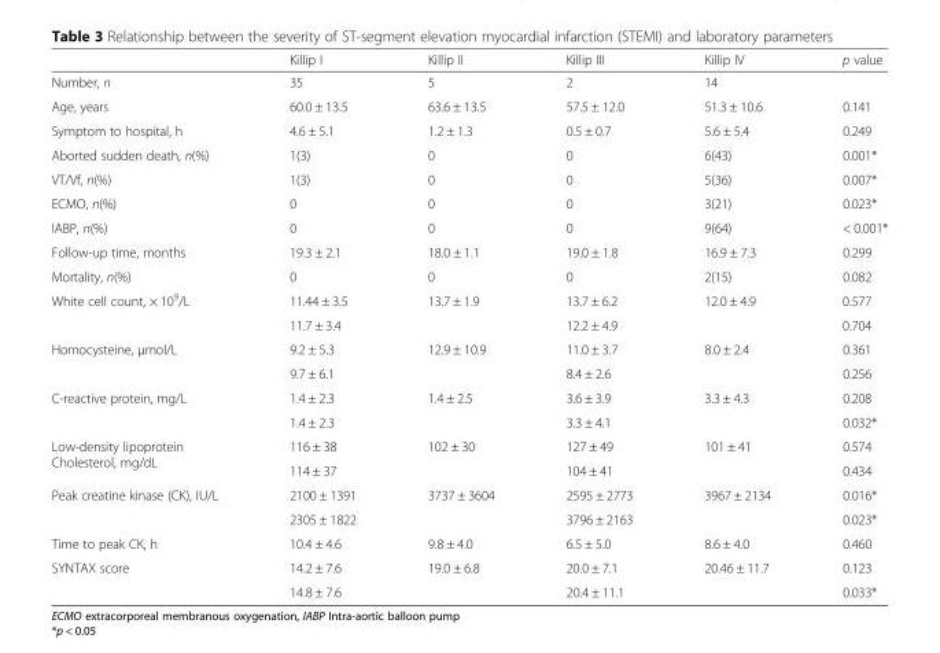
<table><thead><tr><td></td><td>Killip I</td><td>Killip II</td><td>Killip III</td><td>Killip IV</td><td>p value</td></tr></thead><tbody><tr><td>Number, n</td><td>35</td><td>5</td><td>2</td><td>14</td><td></td></tr><tr><td>Age, years</td><td>60.0 ± 13.5</td><td>63.6 ± 13.5</td><td>57.5 ± 12.0</td><td>51.3 ± 10.6</td><td>0.141</td></tr><tr><td>Symptom to hospital, h</td><td>4.6 ± 5.1</td><td>1.2 ± 1.3</td><td>0.5 ± 0.7</td><td>5.6 ± 5.4</td><td>0.249</td></tr><tr><td>Aborted sudden death, n(%)</td><td>1(3)</td><td>0</td><td>0</td><td>6(43)</td><td>0.001*</td></tr><tr><td>VT/Vf, n(%)</td><td>1(3)</td><td>0</td><td>0</td><td>5(36)</td><td>0.007*</td></tr><tr><td>ECMO, n(%)</td><td>0</td><td>0</td><td>0</td><td>3(21)</td><td>0.023*</td></tr><tr><td>IABP, n(%)</td><td>0</td><td>0</td><td>0</td><td>9(64)</td><td>&lt; 0.001*</td></tr><tr><td>Follow-up time, months</td><td>19.3 ± 2.1</td><td>18.0 ± 1.1</td><td>19.0 ± 1.8</td><td>16.9 ± 7.3</td><td>0.299</td></tr><tr><td>Mortality, n(%)</td><td>0</td><td>0</td><td>0</td><td>2(15)</td><td>0.082</td></tr><tr><td rowspan="2">White cell count, × 10<sup>9</sup>/L</td><td>11.44 ± 3.5</td><td>13.7 ± 1.9</td><td>13.7 ± 6.2</td><td>12.0 ± 4.9</td><td>0.577</td></tr><tr><td colspan="2">11.7 ± 3.4</td><td colspan="2">12.2 ± 4.9</td><td>0.704</td></tr><tr><td rowspan="2">Homocysteine, μmol/L</td><td>9.2 ± 5.3</td><td>12.9 ± 10.9</td><td>11.0 ± 3.7</td><td>8.0 ± 2.4</td><td>0.361</td></tr><tr><td colspan="2">9.7 ± 6.1</td><td colspan="2">8.4 ± 2.6</td><td>0.256</td></tr><tr><td rowspan="2">C-reactive protein, mg/L</td><td>1.4 ± 2.3</td><td>1.4 ± 2.5</td><td>3.6 ± 3.9</td><td>3.3 ± 4.3</td><td>0.208</td></tr><tr><td colspan="2">1.4 ± 2.3</td><td colspan="2">3.3 ± 4.1</td><td>0.032*</td></tr><tr><td rowspan="2">Low-density lipoprotein Cholesterol, mg/dL</td><td>116 ± 38</td><td>102 ± 30</td><td>127 ± 49</td><td>101 ± 41</td><td>0.574</td></tr><tr><td colspan="2">114 ± 37</td><td colspan="2">104 ± 41</td><td>0.434</td></tr><tr><td rowspan="2">Peak creatine kinase (CK), IU/L</td><td>2100 ± 1391</td><td>3737 ± 3604</td><td>2595 ± 2773</td><td>3967 ± 2134</td><td>0.016*</td></tr><tr><td colspan="2">2305 ± 1822</td><td colspan="2">3796 ± 2163</td><td>0.023*</td></tr><tr><td>Time to peak CK, h</td><td>10.4 ± 4.6</td><td>9.8 ± 4.0</td><td>6.5 ± 5.0</td><td>8.6 ± 4.0</td><td>0.460</td></tr><tr><td rowspan="2">SYNTAX score</td><td>14.2 ± 7.6</td><td>19.0 ± 6.8</td><td>20.0 ± 7.1</td><td>20.46 ± 11.7</td><td>0.123</td></tr><tr><td colspan="2">14.8 ± 7.6</td><td colspan="2">20.4 ± 11.1</td><td>0.033*</td></tr></tbody></table>